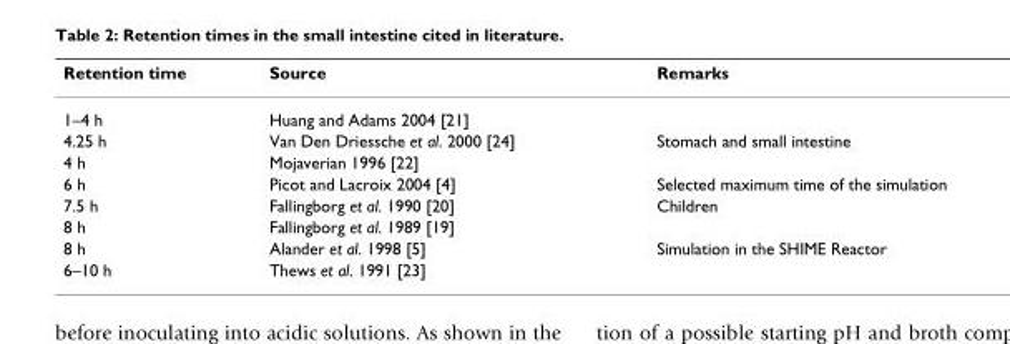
<table><thead><tr><td>Retention time</td><td>Source</td><td>Remarks</td></tr></thead><tbody><tr><td>1–4 h</td><td>Huang and Adams 2004 [21]</td><td></td></tr><tr><td>4.25 h</td><td>Van Den Driessche et al. 2000 [24]</td><td>Stomach and small intestine</td></tr><tr><td>4 h</td><td>Mojaverian 1996 [22]</td><td></td></tr><tr><td>6 h</td><td>Picot and Lacroix 2004 [4]</td><td>Selected maximum time of the simulation</td></tr><tr><td>7.5 h</td><td>Fallingborg et al. 1990 [20]</td><td>Children</td></tr><tr><td>8 h</td><td>Fallingborg et al. 1989 [19]</td><td></td></tr><tr><td>8 h</td><td>Alander et al. 1998 [5]</td><td>Simulation in the SHIME Reactor</td></tr><tr><td>6–10 h</td><td>Thews et al. 1991 [23]</td><td></td></tr></tbody></table>